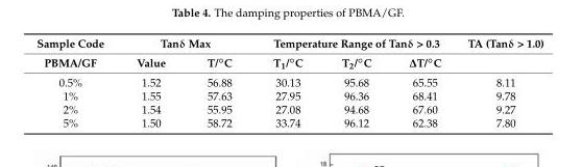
<table><thead><tr><td rowspan="2">Sample Code PBMA/GF</td><td colspan="2">Tanδ Max</td><td colspan="3">Temperature Range of Tanδ &gt; 0.3</td><td rowspan="2">TA (Tanδ &gt; 1.0)</td></tr><tr><td>Value</td><td>T/◦C</td><td>T1/◦C</td><td>T2/◦C</td><td>∆T/◦C</td></tr></thead><tbody><tr><td>0.5%</td><td>1.52</td><td>56.88</td><td>30.13</td><td>95.68</td><td>65.55</td><td>8.11</td></tr><tr><td>1%</td><td>1.55</td><td>57.63</td><td>27.95</td><td>96.36</td><td>68.41</td><td>9.78</td></tr><tr><td>2%</td><td>1.54</td><td>55.95</td><td>27.08</td><td>94.68</td><td>67.60</td><td>9.27</td></tr><tr><td>5%</td><td>1.50</td><td>58.72</td><td>33.74</td><td>96.12</td><td>62.38</td><td>7.80</td></tr></tbody></table>